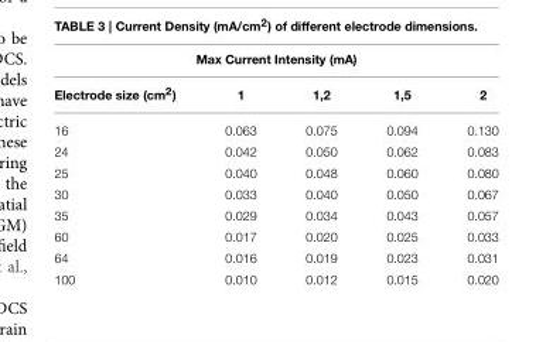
<table><thead><tr><td colspan="5">Max Current Intensity (mA)</td></tr><tr><td>Electrode size (cm<sup>2</sup>)</td><td>1</td><td>1,2</td><td>1,5</td><td>2</td></tr></thead><tbody><tr><td>16</td><td>0.063</td><td>0.075</td><td>0.094</td><td>0.130</td></tr><tr><td>24</td><td>0.042</td><td>0.050</td><td>0.062</td><td>0.083</td></tr><tr><td>25</td><td>0.040</td><td>0.048</td><td>0.060</td><td>0.080</td></tr><tr><td>30</td><td>0.033</td><td>0.040</td><td>0.050</td><td>0.067</td></tr><tr><td>35</td><td>0.029</td><td>0.034</td><td>0.043</td><td>0.057</td></tr><tr><td>60</td><td>0.017</td><td>0.020</td><td>0.025</td><td>0.033</td></tr><tr><td>64</td><td>0.016</td><td>0.019</td><td>0.023</td><td>0.031</td></tr><tr><td>100</td><td>0.010</td><td>0.012</td><td>0.015</td><td>0.020</td></tr></tbody></table>